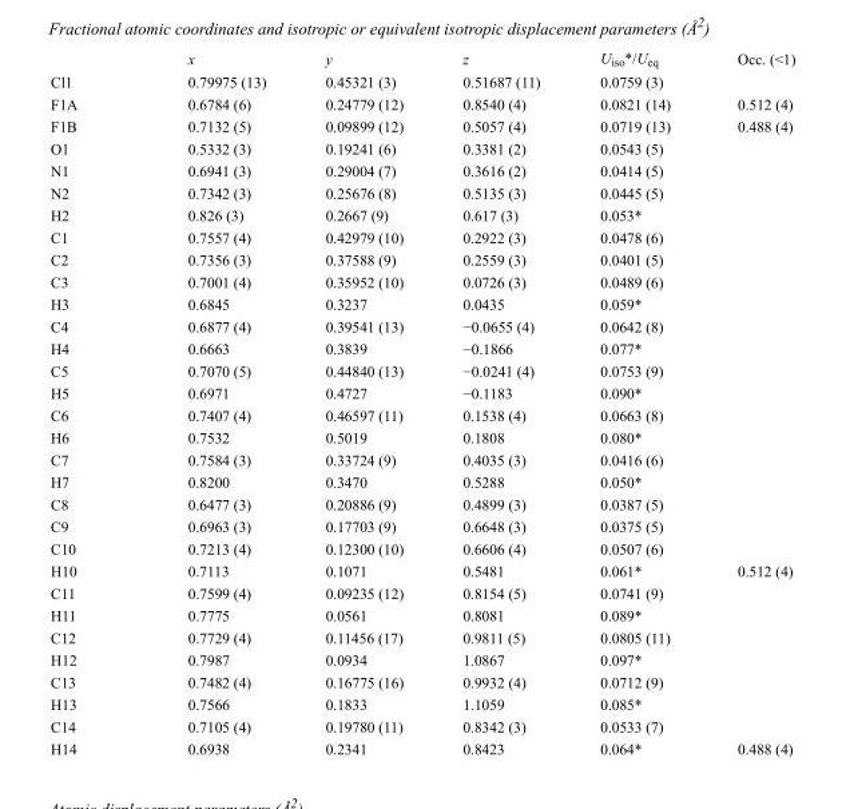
<table><thead><tr><td></td><td>x</td><td>y</td><td>z</td><td>U<sub>iso</sub>*/U<sub>eq</sub></td><td>Occ. (&lt;1)</td></tr></thead><tbody><tr><td>Cl1</td><td>0.79975 (13)</td><td>0.45321 (3)</td><td>0.51687 (11)</td><td>0.0759 (3)</td><td></td></tr><tr><td>F1A</td><td>0.6784 (6)</td><td>0.24779 (12)</td><td>0.8540 (4)</td><td>0.0821 (14)</td><td>0.512 (4)</td></tr><tr><td>F1B</td><td>0.7132 (5)</td><td>0.09899 (12)</td><td>0.5057 (4)</td><td>0.0719 (13)</td><td>0.488 (4)</td></tr><tr><td>O1</td><td>0.5332 (3)</td><td>0.19241 (6)</td><td>0.3381 (2)</td><td>0.0543 (5)</td><td></td></tr><tr><td>N1</td><td>0.6941 (3)</td><td>0.29004 (7)</td><td>0.3616 (2)</td><td>0.0414 (5)</td><td></td></tr><tr><td>N2</td><td>0.7342 (3)</td><td>0.25676 (8)</td><td>0.5135 (3)</td><td>0.0445 (5)</td><td></td></tr><tr><td>H2</td><td>0.826 (3)</td><td>0.2667 (9)</td><td>0.617 (3)</td><td>0.053*</td><td></td></tr><tr><td>C1</td><td>0.7557 (4)</td><td>0.42979 (10)</td><td>0.2922 (3)</td><td>0.0478 (6)</td><td></td></tr><tr><td>C2</td><td>0.7356 (3)</td><td>0.37588 (9)</td><td>0.2559 (3)</td><td>0.0401 (5)</td><td></td></tr><tr><td>C3</td><td>0.7001 (4)</td><td>0.35952 (10)</td><td>0.0726 (3)</td><td>0.0489 (6)</td><td></td></tr><tr><td>H3</td><td>0.6845</td><td>0.3237</td><td>0.0435</td><td>0.059*</td><td></td></tr><tr><td>C4</td><td>0.6877 (4)</td><td>0.39541 (13)</td><td>−0.0655 (4)</td><td>0.0642 (8)</td><td></td></tr><tr><td>H4</td><td>0.6663</td><td>0.3839</td><td>−0.1866</td><td>0.077*</td><td></td></tr><tr><td>C5</td><td>0.7070 (5)</td><td>0.44840 (13)</td><td>−0.0241 (4)</td><td>0.0753 (9)</td><td></td></tr><tr><td>H5</td><td>0.6971</td><td>0.4727</td><td>−0.1183</td><td>0.090*</td><td></td></tr><tr><td>C6</td><td>0.7407 (4)</td><td>0.46597 (11)</td><td>0.1538 (4)</td><td>0.0663 (8)</td><td></td></tr><tr><td>H6</td><td>0.7532</td><td>0.5019</td><td>0.1808</td><td>0.080*</td><td></td></tr><tr><td>C7</td><td>0.7584 (3)</td><td>0.33724 (9)</td><td>0.4035 (3)</td><td>0.0416 (6)</td><td></td></tr><tr><td>H7</td><td>0.8200</td><td>0.3470</td><td>0.5288</td><td>0.050*</td><td></td></tr><tr><td>C8</td><td>0.6477 (3)</td><td>0.20886 (9)</td><td>0.4899 (3)</td><td>0.0387 (5)</td><td></td></tr><tr><td>C9</td><td>0.6963 (3)</td><td>0.17703 (9)</td><td>0.6648 (3)</td><td>0.0375 (5)</td><td></td></tr><tr><td>C10</td><td>0.7213 (4)</td><td>0.12300 (10)</td><td>0.6606 (4)</td><td>0.0507 (6)</td><td></td></tr><tr><td>H10</td><td>0.7113</td><td>0.1071</td><td>0.5481</td><td>0.061*</td><td>0.512 (4)</td></tr><tr><td>C11</td><td>0.7599 (4)</td><td>0.09235 (12)</td><td>0.8154 (5)</td><td>0.0741 (9)</td><td></td></tr><tr><td>H11</td><td>0.7775</td><td>0.0561</td><td>0.8081</td><td>0.089*</td><td></td></tr><tr><td>C12</td><td>0.7729 (4)</td><td>0.11456 (17)</td><td>0.9811 (5)</td><td>0.0805 (11)</td><td></td></tr><tr><td>H12</td><td>0.7987</td><td>0.0934</td><td>1.0867</td><td>0.097*</td><td></td></tr><tr><td>C13</td><td>0.7482 (4)</td><td>0.16775 (16)</td><td>0.9932 (4)</td><td>0.0712 (9)</td><td></td></tr><tr><td>H13</td><td>0.7566</td><td>0.1833</td><td>1.1059</td><td>0.085*</td><td></td></tr><tr><td>C14</td><td>0.7105 (4)</td><td>0.19780 (11)</td><td>0.8342 (3)</td><td>0.0533 (7)</td><td></td></tr><tr><td>H14</td><td>0.6938</td><td>0.2341</td><td>0.8423</td><td>0.064*</td><td>0.488 (4)</td></tr></tbody></table>